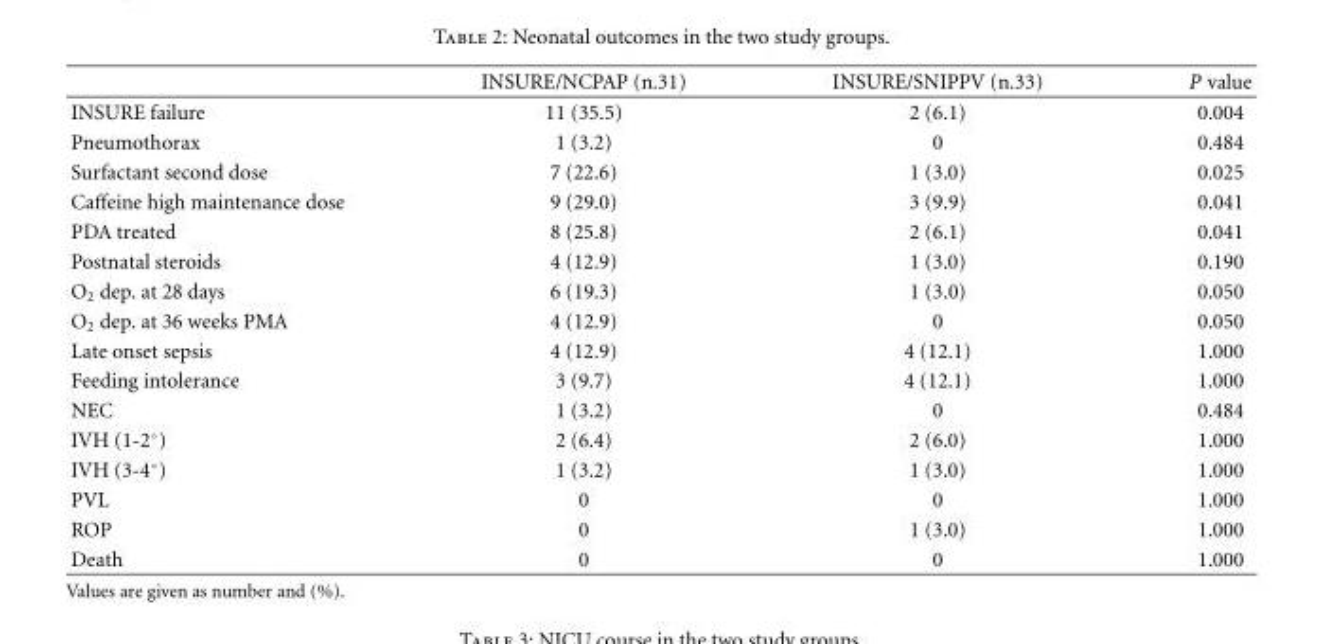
<table><thead><tr><td></td><td>INSURE/NCPAP (n.31)</td><td>INSURE/SNIPPV (n.33)</td><td>P value</td></tr></thead><tbody><tr><td>INSURE failure</td><td>11 (35.5)</td><td>2 (6.1)</td><td>0.004</td></tr><tr><td>Pneumothorax</td><td>1 (3.2)</td><td>0</td><td>0.484</td></tr><tr><td>Surfactant second dose</td><td>7 (22.6)</td><td>1 (3.0)</td><td>0.025</td></tr><tr><td>Caffeine high maintenance dose</td><td>9 (29.0)</td><td>3 (9.9)</td><td>0.041</td></tr><tr><td>PDA treated</td><td>8 (25.8)</td><td>2 (6.1)</td><td>0.041</td></tr><tr><td>Postnatal steroids</td><td>4 (12.9)</td><td>1 (3.0)</td><td>0.190</td></tr><tr><td>O<sub>2</sub> dep. at 28 days</td><td>6 (19.3)</td><td>1 (3.0)</td><td>0.050</td></tr><tr><td>O<sub>2</sub> dep. at 36 weeks PMA</td><td>4 (12.9)</td><td>0</td><td>0.050</td></tr><tr><td>Late onset sepsis</td><td>4 (12.9)</td><td>4 (12.1)</td><td>1.000</td></tr><tr><td>Feeding intolerance</td><td>3 (9.7)</td><td>4 (12.1)</td><td>1.000</td></tr><tr><td>NEC</td><td>1 (3.2)</td><td>0</td><td>0.484</td></tr><tr><td>IVH (1-2◦)</td><td>2 (6.4)</td><td>2 (6.0)</td><td>1.000</td></tr><tr><td>IVH (3-4◦)</td><td>1 (3.2)</td><td>1 (3.0)</td><td>1.000</td></tr><tr><td>PVL</td><td>0</td><td>0</td><td>1.000</td></tr><tr><td>ROP</td><td>0</td><td>1 (3.0)</td><td>1.000</td></tr><tr><td>Death</td><td>0</td><td>0</td><td>1.000</td></tr></tbody></table>